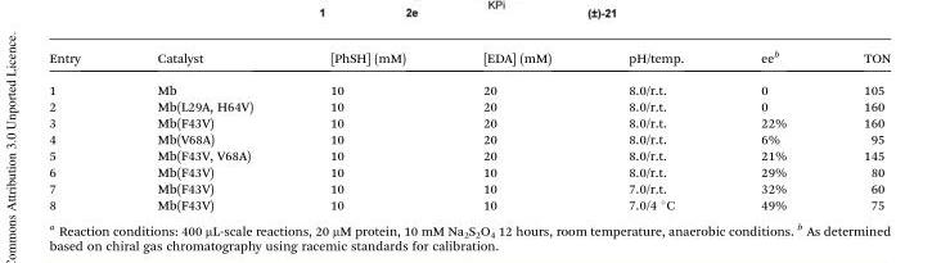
<table><thead><tr><td>Entry</td><td>Catalyst</td><td>[PhSH] (mM)</td><td>[EDA] (mM)</td><td>pH/temp.</td><td>ee<sup>b</sup></td><td>TON</td></tr></thead><tbody><tr><td>1</td><td>Mb</td><td>10</td><td>20</td><td>8.0/r.t.</td><td>0</td><td>105</td></tr><tr><td>2</td><td>Mb(L29A, H64V)</td><td>10</td><td>20</td><td>8.0/r.t.</td><td>0</td><td>160</td></tr><tr><td>3</td><td>Mb(F43V)</td><td>10</td><td>20</td><td>8.0/r.t.</td><td>22%</td><td>160</td></tr><tr><td>4</td><td>Mb(V68A)</td><td>10</td><td>20</td><td>8.0/r.t.</td><td>6%</td><td>95</td></tr><tr><td>5</td><td>Mb(F43V, V68A)</td><td>10</td><td>20</td><td>8.0/r.t.</td><td>21%</td><td>145</td></tr><tr><td>6</td><td>Mb(F43V)</td><td>10</td><td>10</td><td>8.0/r.t.</td><td>29%</td><td>80</td></tr><tr><td>7</td><td>Mb(F43V)</td><td>10</td><td>10</td><td>7.0/r.t.</td><td>32%</td><td>60</td></tr><tr><td>8</td><td>Mb(F43V)</td><td>10</td><td>10</td><td>7.0/4 °C</td><td>49%</td><td>75</td></tr></tbody></table>